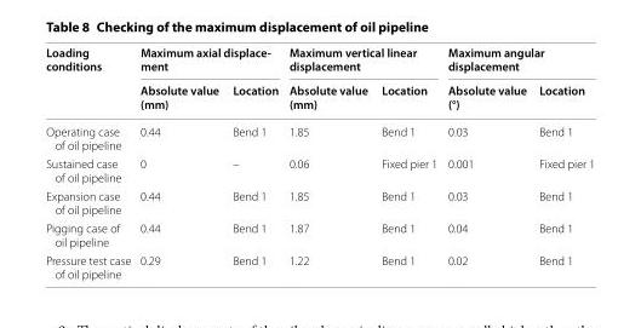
<table><thead><tr><td rowspan="2">Loading conditions</td><td colspan="2">Maximum axial displace- ment</td><td colspan="2">Maximum vertical linear displacement</td><td colspan="2">Maximum angular displacement</td></tr><tr><td>Absolute value (mm)</td><td>Location</td><td>Absolute value (mm)</td><td>Location</td><td>Absolute value (°)</td><td>Location</td></tr></thead><tbody><tr><td>Operating case of oil pipeline</td><td>0.44</td><td>Bend 1</td><td>1.85</td><td>Bend 1</td><td>0.03</td><td>Bend 1</td></tr><tr><td>Sustained case of oil pipeline</td><td>0</td><td>–</td><td>0.06</td><td>Fixed pier 1</td><td>0.001</td><td>Fixed pier 1</td></tr><tr><td>Expansion case of oil pipeline</td><td>0.44</td><td>Bend 1</td><td>1.85</td><td>Bend 1</td><td>0.03</td><td>Bend 1</td></tr><tr><td>Pigging case of oil pipeline</td><td>0.44</td><td>Bend 1</td><td>1.87</td><td>Bend 1</td><td>0.04</td><td>Bend 1</td></tr><tr><td>Pressure test case of oil pipeline</td><td>0.29</td><td>Bend 1</td><td>1.22</td><td>Bend 1</td><td>0.02</td><td>Bend 1</td></tr></tbody></table>